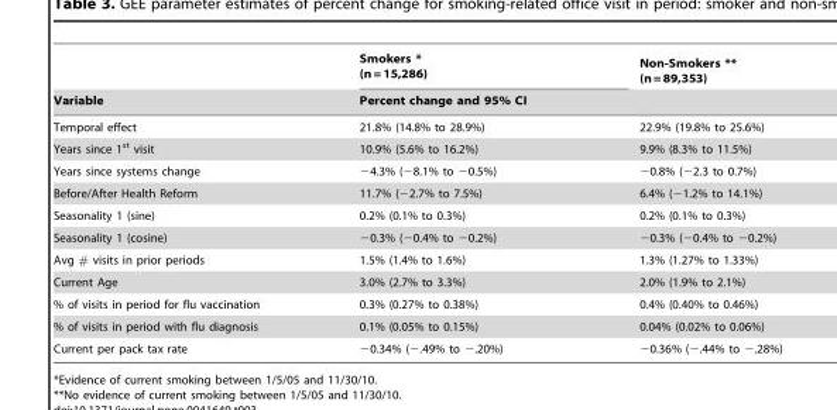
<table><thead><tr><td rowspan="2">Variable</td><td>Smokers * (n = 15,286)</td><td>Non-Smokers ** (n = 89,353)</td></tr><tr><td colspan="2">Percent change and 95% CI</td></tr></thead><tbody><tr><td>Temporal effect</td><td>21.8% (14.8% to 28.9%)</td><td>22.9% (19.8% to 25.6%)</td></tr><tr><td>Years since 1<sup>st</sup> visit</td><td>10.9% (5.6% to 16.2%)</td><td>9.9% (8.3% to 11.5%)</td></tr><tr><td>Years since systems change</td><td>−4.3% (−8.1% to −0.5%)</td><td>−0.8% (−2.3 to 0.7%)</td></tr><tr><td>Before/After Health Reform</td><td>11.7% (−2.7% to 7.5%)</td><td>6.4% (−1.2% to 14.1%)</td></tr><tr><td>Seasonality 1 (sine)</td><td>0.2% (0.1% to 0.3%)</td><td>0.2% (0.1% to 0.3%)</td></tr><tr><td>Seasonality 1 (cosine)</td><td>−0.3% (−0.4% to −0.2%)</td><td>−0.3% (−0.4% to −0.2%)</td></tr><tr><td>Avg # visits in prior periods</td><td>1.5% (1.4% to 1.6%)</td><td>1.3% (1.27% to 1.33%)</td></tr><tr><td>Current Age</td><td>3.0% (2.7% to 3.3%)</td><td>2.0% (1.9% to 2.1%)</td></tr><tr><td>% of visits in period for flu vaccination</td><td>0.3% (0.27% to 0.38%)</td><td>0.4% (0.40% to 0.46%)</td></tr><tr><td>% of visits in period with flu diagnosis</td><td>0.1% (0.05% to 0.15%)</td><td>0.04% (0.02% to 0.06%)</td></tr><tr><td>Current per pack tax rate</td><td>−0.34% (−.49% to −.20%)</td><td>−0.36% (−.44% to −.28%)</td></tr></tbody></table>